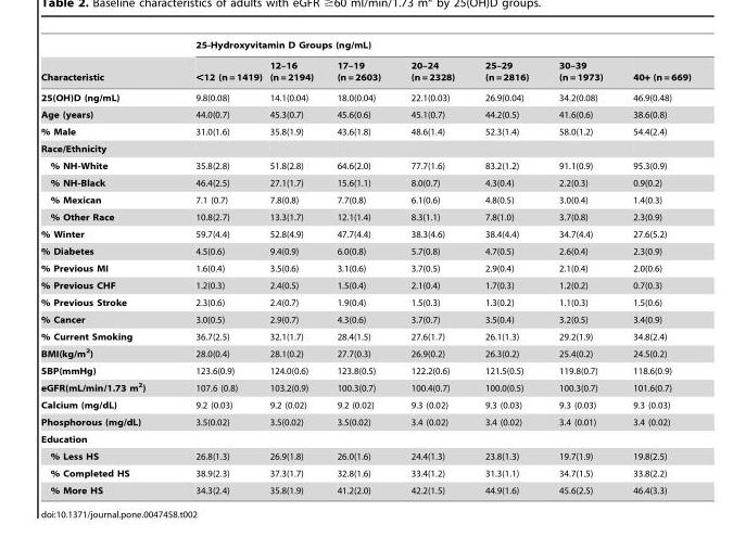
<table><thead><tr><td rowspan="2">Characteristic</td><td colspan="7">25-Hydroxyvitamin D Groups (ng/mL)</td></tr><tr><td>&lt;12 (n = 1419)</td><td>12–16 (n = 2194)</td><td>17–19 (n = 2603)</td><td>20–24 (n = 2328)</td><td>25–29 (n = 2816)</td><td>30–39 (n = 1973)</td><td>40+ (n = 669)</td></tr></thead><tbody><tr><td>25(OH)D (ng/mL)</td><td>9.8(0.08)</td><td>14.1(0.04)</td><td>18.0(0.04)</td><td>22.1(0.03)</td><td>26.9(0.04)</td><td>34.2(0.08)</td><td>46.9(0.48)</td></tr><tr><td>Age (years)</td><td>44.0(0.7)</td><td>45.3(0.7)</td><td>45.6(0.6)</td><td>45.1(0.7)</td><td>44.2(0.5)</td><td>41.6(0.6)</td><td>38.6(0.8)</td></tr><tr><td>% Male</td><td>31.0(1.6)</td><td>35.8(1.9)</td><td>43.6(1.8)</td><td>48.6(1.4)</td><td>52.3(1.4)</td><td>58.0(1.2)</td><td>54.4(2.4)</td></tr><tr><td colspan="8">Race/Ethnicity</td></tr><tr><td>% NH-White</td><td>35.8(2.8)</td><td>51.8(2.8)</td><td>64.6(2.0)</td><td>77.7(1.6)</td><td>83.2(1.2)</td><td>91.1(0.9)</td><td>95.3(0.9)</td></tr><tr><td>% NH-Black</td><td>46.4(2.5)</td><td>27.1(1.7)</td><td>15.6(1.1)</td><td>8.0(0.7)</td><td>4.3(0.4)</td><td>2.2(0.3)</td><td>0.9(0.2)</td></tr><tr><td>% Mexican</td><td>7.1 (0.7)</td><td>7.8(0.8)</td><td>7.7(0.8)</td><td>6.1(0.6)</td><td>4.8(0.5)</td><td>3.0(0.4)</td><td>1.4(0.3)</td></tr><tr><td>% Other Race</td><td>10.8(2.7)</td><td>13.3(1.7)</td><td>12.1(1.4)</td><td>8.3(1.1)</td><td>7.8(1.0)</td><td>3.7(0.8)</td><td>2.3(0.9)</td></tr><tr><td>% Winter</td><td>59.7(4.4)</td><td>52.8(4.9)</td><td>47.7(4.4)</td><td>38.3(4.6)</td><td>38.4(4.4)</td><td>34.7(4.4)</td><td>27.6(5.2)</td></tr><tr><td>% Diabetes</td><td>4.5(0.6)</td><td>9.4(0.9)</td><td>6.0(0.8)</td><td>5.7(0.8)</td><td>4.7(0.5)</td><td>2.6(0.4)</td><td>2.3(0.9)</td></tr><tr><td>% Previous MI</td><td>1.6(0.4)</td><td>3.5(0.6)</td><td>3.1(0.6)</td><td>3.7(0.5)</td><td>2.9(0.4)</td><td>2.1(0.4)</td><td>2.0(0.6)</td></tr><tr><td>% Previous CHF</td><td>1.2(0.3)</td><td>2.4(0.5)</td><td>1.5(0.4)</td><td>2.1(0.4)</td><td>1.7(0.3)</td><td>1.2(0.2)</td><td>0.7(0.3)</td></tr><tr><td>% Previous Stroke</td><td>2.3(0.6)</td><td>2.4(0.7)</td><td>1.9(0.4)</td><td>1.5(0.3)</td><td>1.3(0.2)</td><td>1.1(0.3)</td><td>1.5(0.6)</td></tr><tr><td>% Cancer</td><td>3.0(0.5)</td><td>2.9(0.7)</td><td>4.3(0.6)</td><td>3.7(0.7)</td><td>3.5(0.4)</td><td>3.2(0.5)</td><td>3.4(0.9)</td></tr><tr><td>% Current Smoking</td><td>36.7(2.5)</td><td>32.1(1.7)</td><td>28.4(1.5)</td><td>27.6(1.7)</td><td>26.1(1.3)</td><td>29.2(1.9)</td><td>34.8(2.4)</td></tr><tr><td>BMI(kg/m<sup>2</sup>)</td><td>28.0(0.4)</td><td>28.1(0.2)</td><td>27.7(0.3)</td><td>26.9(0.2)</td><td>26.3(0.2)</td><td>25.4(0.2)</td><td>24.5(0.2)</td></tr><tr><td>SBP(mmHg)</td><td>123.6(0.9)</td><td>124.0(0.6)</td><td>123.8(0.5)</td><td>122.2(0.6)</td><td>121.5(0.5)</td><td>119.8(0.7)</td><td>118.6(0.9)</td></tr><tr><td>eGFR(mL/min/1.73 m<sup>2</sup>)</td><td>107.6 (0.8)</td><td>103.2(0.9)</td><td>100.3(0.7)</td><td>100.4(0.7)</td><td>100.0(0.5)</td><td>100.3(0.7)</td><td>101.6(0.7)</td></tr><tr><td>Calcium (mg/dL)</td><td>9.2 (0.03)</td><td>9.2 (0.02)</td><td>9.2 (0.02)</td><td>9.3 (0.02)</td><td>9.3 (0.03)</td><td>9.3 (0.03)</td><td>9.3 (0.03)</td></tr><tr><td>Phosphorous (mg/dL)</td><td>3.5(0.02)</td><td>3.5(0.02)</td><td>3.5(0.02)</td><td>3.4 (0.02)</td><td>3.4 (0.02)</td><td>3.4 (0.01)</td><td>3.4 (0.02)</td></tr><tr><td colspan="8">Education</td></tr><tr><td>% Less HS</td><td>26.8(1.3)</td><td>26.9(1.8)</td><td>26.0(1.6)</td><td>24.4(1.3)</td><td>23.8(1.3)</td><td>19.7(1.9)</td><td>19.8(2.5)</td></tr><tr><td>% Completed HS</td><td>38.9(2.3)</td><td>37.3(1.7)</td><td>32.8(1.6)</td><td>33.4(1.2)</td><td>31.3(1.1)</td><td>34.7(1.5)</td><td>33.8(2.2)</td></tr><tr><td>% More HS</td><td>34.3(2.4)</td><td>35.8(1.9)</td><td>41.2(2.0)</td><td>42.2(1.5)</td><td>44.9(1.6)</td><td>45.6(2.5)</td><td>46.4(3.3)</td></tr></tbody></table>